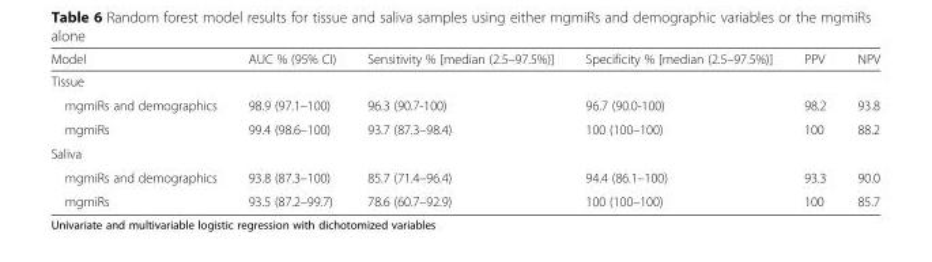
<table><thead><tr><td>Model</td><td>AUC % (95% CI)</td><td>Sensitivity % [median (2.5–97.5%)]</td><td>Specificity % [median (2.5–97.5%)]</td><td>PPV</td><td>NPV</td></tr></thead><tbody><tr><td colspan="6">Tissue</td></tr><tr><td>mgmiRs and demographics</td><td>98.9 (97.1–100)</td><td>96.3 (90.7-100)</td><td>96.7 (90.0-100)</td><td>98.2</td><td>93.8</td></tr><tr><td>mgmiRs</td><td>99.4 (98.6–100)</td><td>93.7 (87.3–98.4)</td><td>100 (100–100)</td><td>100</td><td>88.2</td></tr><tr><td colspan="6">Saliva</td></tr><tr><td>mgmiRs and demographics</td><td>93.8 (87.3–100)</td><td>85.7 (71.4–96.4)</td><td>94.4 (86.1–100)</td><td>93.3</td><td>90.0</td></tr><tr><td>mgmiRs</td><td>93.5 (87.2–99.7)</td><td>78.6 (60.7–92.9)</td><td>100 (100–100)</td><td>100</td><td>85.7</td></tr></tbody></table>